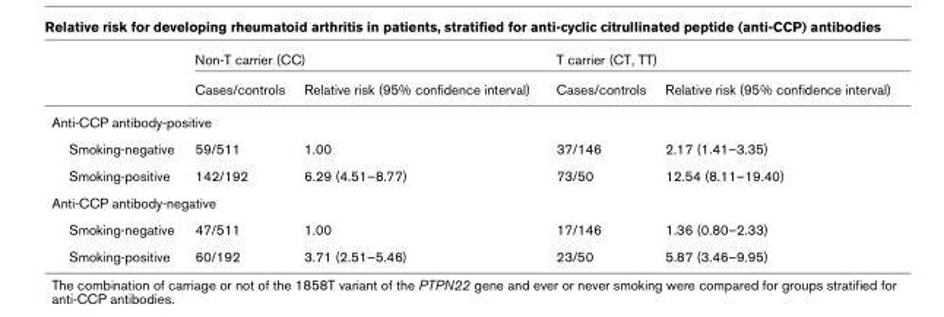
<table><thead><tr><td rowspan="2"></td><td colspan="2">Non-T carrier (CC)</td><td colspan="2">T carrier (CT, TT)</td></tr><tr><td>Cases/controls</td><td>Relative risk (95% confidence interval)</td><td>Cases/controls</td><td>Relative risk (95% confidence interval)</td></tr></thead><tbody><tr><td colspan="5">Anti-CCP antibody-positive</td></tr><tr><td>Smoking-negative</td><td>59/511</td><td>1.00</td><td>37/146</td><td>2.17 (1.41–3.35)</td></tr><tr><td>Smoking-positive</td><td>142/192</td><td>6.29 (4.51–8.77)</td><td>73/50</td><td>12.54 (8.11–19.40)</td></tr><tr><td colspan="5">Anti-CCP antibody-negative</td></tr><tr><td>Smoking-negative</td><td>47/511</td><td>1.00</td><td>17/146</td><td>1.36 (0.80–2.33)</td></tr><tr><td>Smoking-positive</td><td>60/192</td><td>3.71 (2.51–5.46)</td><td>23/50</td><td>5.87 (3.46–9.95)</td></tr></tbody></table>